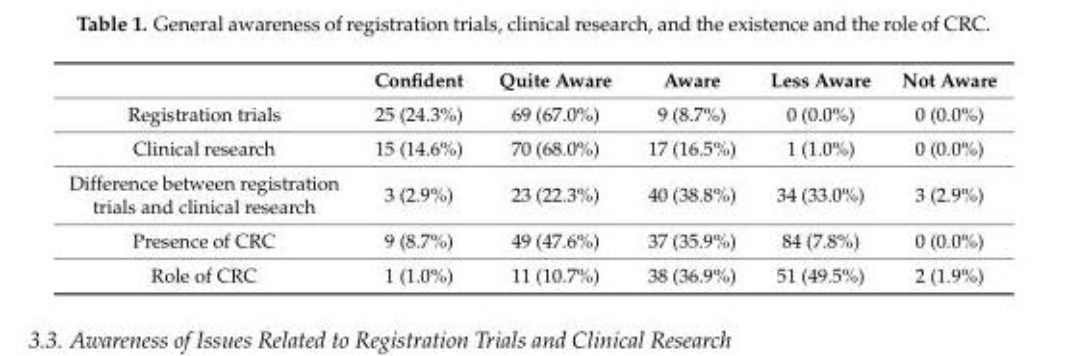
<table><thead><tr><td></td><td>Confident</td><td>Quite Aware</td><td>Aware</td><td>Less Aware</td><td>Not Aware</td></tr></thead><tbody><tr><td>Registration trials</td><td>25 (24.3%)</td><td>69 (67.0%)</td><td>9 (8.7%)</td><td>0 (0.0%)</td><td>0 (0.0%)</td></tr><tr><td>Clinical research</td><td>15 (14.6%)</td><td>70 (68.0%)</td><td>17 (16.5%)</td><td>1 (1.0%)</td><td>0 (0.0%)</td></tr><tr><td>Difference between registration trials and clinical research</td><td>3 (2.9%)</td><td>23 (22.3%)</td><td>40 (38.8%)</td><td>34 (33.0%)</td><td>3 (2.9%)</td></tr><tr><td>Presence of CRC</td><td>9 (8.7%)</td><td>49 (47.6%)</td><td>37 (35.9%)</td><td>84 (7.8%)</td><td>0 (0.0%)</td></tr><tr><td>Role of CRC</td><td>1 (1.0%)</td><td>11 (10.7%)</td><td>38 (36.9%)</td><td>51 (49.5%)</td><td>2 (1.9%)</td></tr></tbody></table>